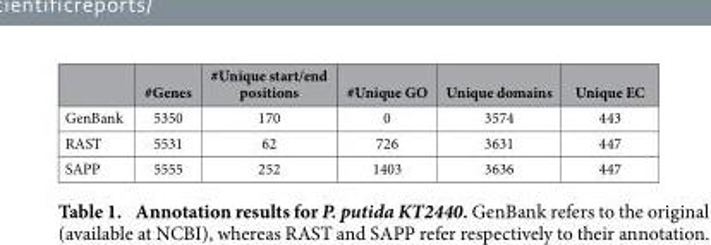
<table><thead><tr><td></td><td>#Genes</td><td>#Unique start/end positions</td><td>#Unique GO</td><td>Unique domains</td><td>Unique EC</td></tr></thead><tbody><tr><td>GenBank</td><td>5350</td><td>170</td><td>0</td><td>3574</td><td>443</td></tr><tr><td>RAST</td><td>5531</td><td>62</td><td>726</td><td>3631</td><td>447</td></tr><tr><td>SAPP</td><td>5555</td><td>252</td><td>1403</td><td>3636</td><td>447</td></tr></tbody></table>